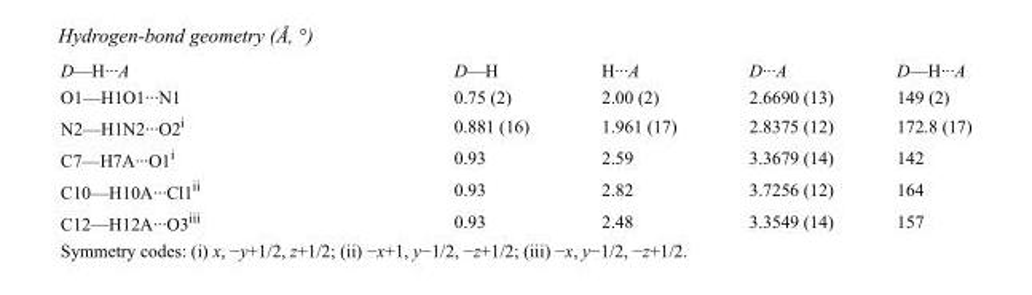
<table><tbody><tr><td>D—H···A</td><td>D—H</td><td>H···A</td><td>D···A</td><td>D—H···A</td></tr><tr><td>O1—H1O1···N1</td><td>0.75 (2)</td><td>2.00 (2)</td><td>2.6690 (13)</td><td>149 (2)</td></tr><tr><td>N2—H1N2···O2<sup>i</sup></td><td>0.881 (16)</td><td>1.961 (17)</td><td>2.8375 (12)</td><td>172.8 (17)</td></tr><tr><td>C7—H7A···O1<sup>i</sup></td><td>0.93</td><td>2.59</td><td>3.3679 (14)</td><td>142</td></tr><tr><td>C10—H10A···Cl1<sup>ii</sup></td><td>0.93</td><td>2.82</td><td>3.7256 (12)</td><td>164</td></tr><tr><td>C12—H12A···O3<sup>iii</sup></td><td>0.93</td><td>2.48</td><td>3.3549 (14)</td><td>157</td></tr></tbody></table>